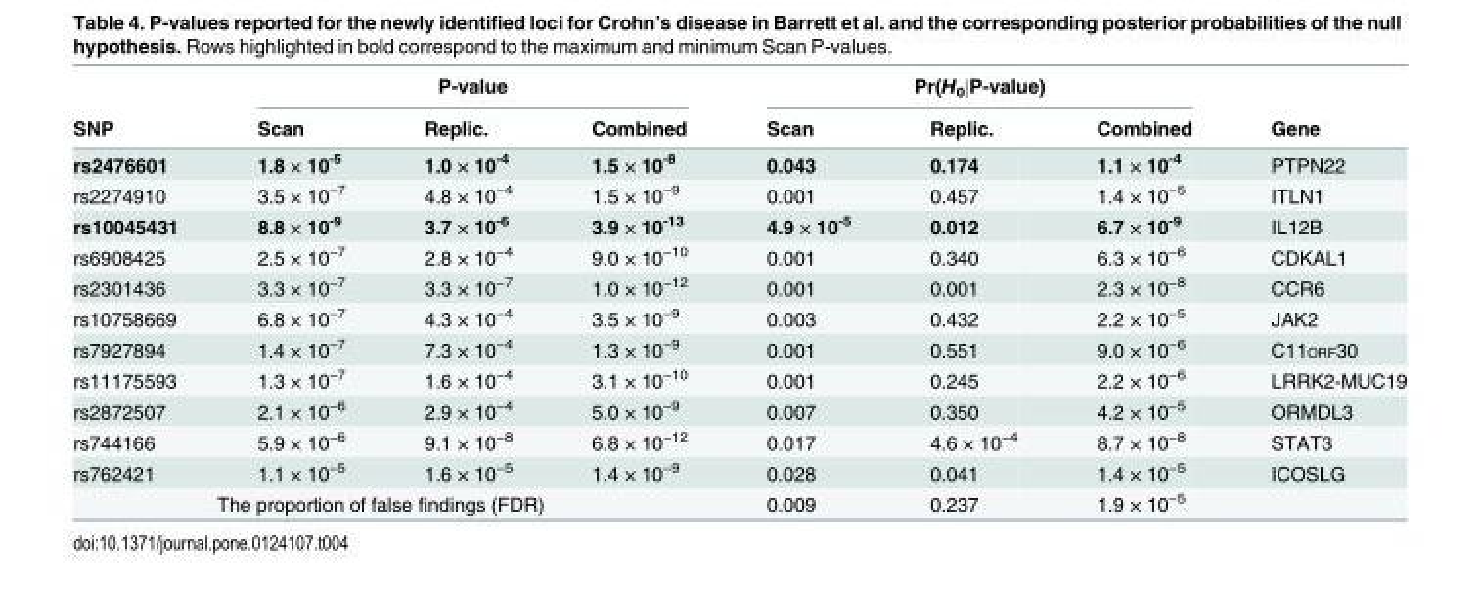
<table><thead><tr><td rowspan="2">SNP</td><td colspan="3">P-value</td><td colspan="3">Pr(H<sub>0</sub>|P-value)</td><td rowspan="2">Gene</td></tr><tr><td>Scan</td><td>Replic.</td><td>Combined</td><td>Scan</td><td>Replic.</td><td>Combined</td></tr></thead><tbody><tr><td>rs2476601</td><td>1.8 × 10<sup>-5</sup></td><td>1.0 × 10<sup>-4</sup></td><td>1.5 × 10<sup>-8</sup></td><td>0.043</td><td>0.174</td><td>1.1 × 10<sup>-4</sup></td><td>PTPN22</td></tr><tr><td>rs2274910</td><td>3.5 × 10<sup>−7</sup></td><td>4.8 × 10<sup>−4</sup></td><td>1.5 × 10<sup>−9</sup></td><td>0.001</td><td>0.457</td><td>1.4 × 10<sup>−5</sup></td><td>ITLN1</td></tr><tr><td>rs10045431</td><td>8.8 × 10<sup>-9</sup></td><td>3.7 × 10<sup>-6</sup></td><td>3.9 × 10<sup>-13</sup></td><td>4.9 × 10<sup>-5</sup></td><td>0.012</td><td>6.7 × 10<sup>-9</sup></td><td>IL12B</td></tr><tr><td>rs6908425</td><td>2.5 × 10<sup>−7</sup></td><td>2.8 × 10<sup>−4</sup></td><td>9.0 × 10<sup>−10</sup></td><td>0.001</td><td>0.340</td><td>6.3 × 10<sup>−6</sup></td><td>CDKAL1</td></tr><tr><td>rs2301436</td><td>3.3 × 10<sup>−7</sup></td><td>3.3 × 10<sup>−7</sup></td><td>1.0 × 10<sup>−12</sup></td><td>0.001</td><td>0.001</td><td>2.3 × 10<sup>−8</sup></td><td>CCR6</td></tr><tr><td>rs10758669</td><td>6.8 × 10<sup>−7</sup></td><td>4.3 × 10<sup>−4</sup></td><td>3.5 × 10<sup>−9</sup></td><td>0.003</td><td>0.432</td><td>2.2 × 10<sup>−5</sup></td><td>JAK2</td></tr><tr><td>rs7927894</td><td>1.4 × 10<sup>−7</sup></td><td>7.3 × 10<sup>−4</sup></td><td>1.3 × 10<sup>−9</sup></td><td>0.001</td><td>0.551</td><td>9.0 × 10<sup>−6</sup></td><td>C11ORF30</td></tr><tr><td>rs11175593</td><td>1.3 × 10<sup>−7</sup></td><td>1.6 × 10<sup>−4</sup></td><td>3.1 × 10<sup>−10</sup></td><td>0.001</td><td>0.245</td><td>2.2 × 10<sup>−6</sup></td><td>LRRK2-MUC19</td></tr><tr><td>rs2872507</td><td>2.1 × 10<sup>−6</sup></td><td>2.9 × 10<sup>−4</sup></td><td>5.0 × 10<sup>−9</sup></td><td>0.007</td><td>0.350</td><td>4.2 × 10<sup>−5</sup></td><td>ORMDL3</td></tr><tr><td>rs744166</td><td>5.9 × 10<sup>−6</sup></td><td>9.1 × 10<sup>−8</sup></td><td>6.8 × 10<sup>−12</sup></td><td>0.017</td><td>4.6 × 10<sup>−4</sup></td><td>8.7 × 10<sup>−8</sup></td><td>STAT3</td></tr><tr><td>rs762421</td><td>1.1 × 10<sup>−5</sup></td><td>1.6 × 10<sup>−5</sup></td><td>1.4 × 10<sup>−9</sup></td><td>0.028</td><td>0.041</td><td>1.4 × 10<sup>−5</sup></td><td>ICOSLG</td></tr><tr><td colspan="4">The proportion of false findings (FDR)</td><td>0.009</td><td>0.237</td><td>1.9 × 10<sup>−5</sup></td><td></td></tr></tbody></table>